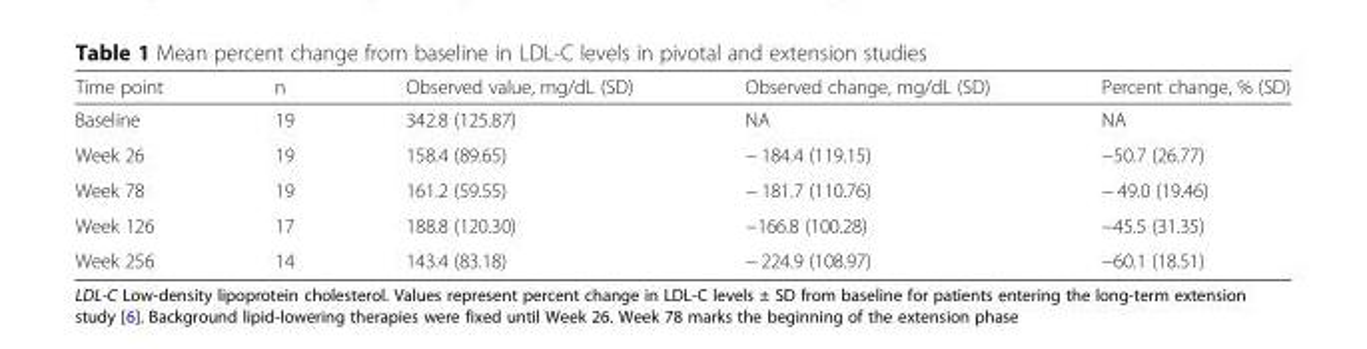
<table><thead><tr><td>Time point</td><td>n</td><td>Observed value, mg/dL (SD)</td><td>Observed change, mg/dL (SD)</td><td>Percent change, % (SD)</td></tr></thead><tbody><tr><td>Baseline</td><td>19</td><td>342.8 (125.87)</td><td>NA</td><td>NA</td></tr><tr><td>Week 26</td><td>19</td><td>158.4 (89.65)</td><td>− 184.4 (119.15)</td><td>−50.7 (26.77)</td></tr><tr><td>Week 78</td><td>19</td><td>161.2 (59.55)</td><td>− 181.7 (110.76)</td><td>− 49.0 (19.46)</td></tr><tr><td>Week 126</td><td>17</td><td>188.8 (120.30)</td><td>−166.8 (100.28)</td><td>−45.5 (31.35)</td></tr><tr><td>Week 256</td><td>14</td><td>143.4 (83.18)</td><td>− 224.9 (108.97)</td><td>−60.1 (18.51)</td></tr></tbody></table>